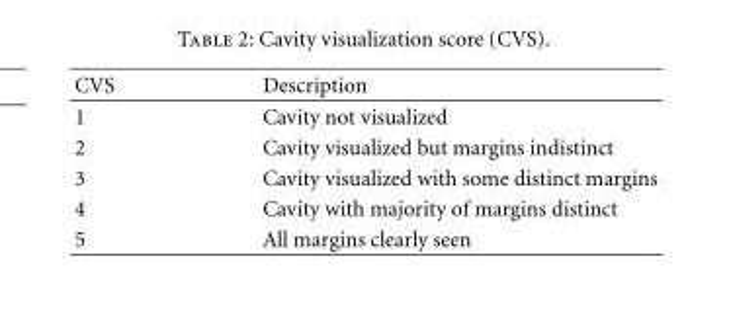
<table><thead><tr><td>CVS</td><td>Description</td></tr></thead><tbody><tr><td>1</td><td>Cavity not visualized</td></tr><tr><td>2</td><td>Cavity visualized but margins indistinct</td></tr><tr><td>3</td><td>Cavity visualized with some distinct margins</td></tr><tr><td>4</td><td>Cavity with majority of margins distinct</td></tr><tr><td>5</td><td>All margins clearly seen</td></tr></tbody></table>